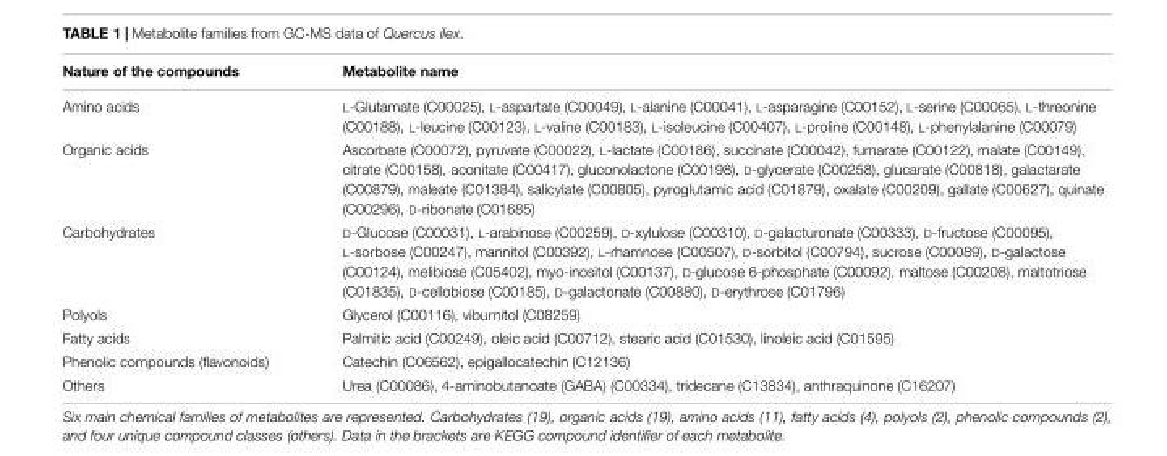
<table><thead><tr><td>Nature of the compounds</td><td>Metabolite name</td></tr></thead><tbody><tr><td>Amino acids</td><td>L-Glutamate (C00025), L-aspartate (C00049), L-alanine (C00041), L-asparagine (C00152), L-serine (C00065), L-threonine (C00188), L-leucine (C00123), L-valine (C00183), L-isoleucine (C00407), L-proline (C00148), L-phenylalanine (C00079)</td></tr><tr><td>Organic acids</td><td>Ascorbate (C00072), pyruvate (C00022), L-lactate (C00186), succinate (C00042), fumarate (C00122), malate (C00149), citrate (C00158), aconitate (C00417), gluconolactone (C00198), D-glycerate (C00258), glucarate (C00818), galactarate (C00879), maleate (C01384), salicylate (C00805), pyroglutamic acid (C01879), oxalate (C00209), gallate (C00627), quinate (C00296), D-ribonate (C01685)</td></tr><tr><td>Carbohydrates</td><td>D-Glucose (C00031), L-arabinose (C00259), D-xylulose (C00310), D-galacturonate (C00333), D-fructose (C00095), L-sorbose (C00247), mannitol (C00392), L-rhamnose (C00507), D-sorbitol (C00794), sucrose (C00089), D-galactose (C00124), melibiose (C05402), myo-inositol (C00137), D-glucose 6-phosphate (C00092), maltose (C00208), maltotriose (C01835), D-cellobiose (C00185), D-galactonate (C00880), D-erythrose (C01796)</td></tr><tr><td>Polyols</td><td>Glycerol (C00116), viburnitol (C08259)</td></tr><tr><td>Fatty acids</td><td>Palmitic acid (C00249), oleic acid (C00712), stearic acid (C01530), linoleic acid (C01595)</td></tr><tr><td>Phenolic compounds (flavonoids)</td><td>Catechin (C06562), epigallocatechin (C12136)</td></tr><tr><td>Others</td><td>Urea (C00086), 4-aminobutanoate (GABA) (C00334), tridecane (C13834), anthraquinone (C16207)</td></tr></tbody></table>